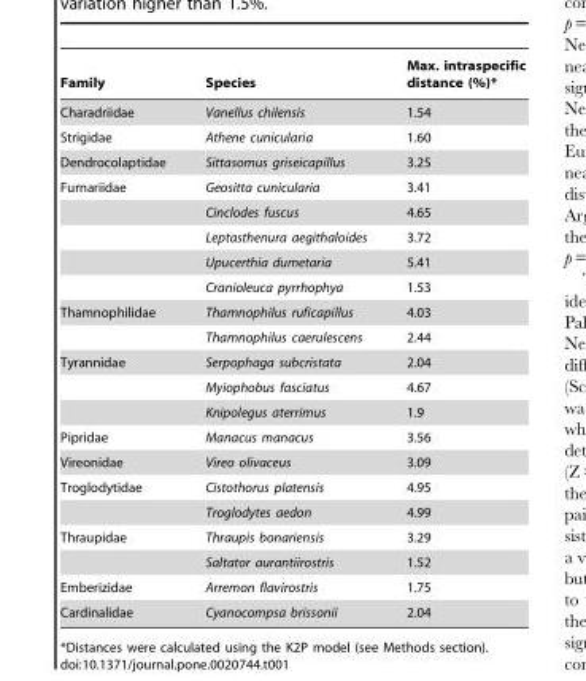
<table><thead><tr><td>Family</td><td>Species</td><td>Max. intraspecific distance (%)*</td></tr></thead><tbody><tr><td>Charadriidae</td><td>Vanellus chilensis</td><td>1.54</td></tr><tr><td>Strigidae</td><td>Athene cunicularia</td><td>1.60</td></tr><tr><td>Dendrocolaptidae</td><td>Sittasomus griseicapillus</td><td>3.25</td></tr><tr><td rowspan="5">Furnariidae</td><td>Geositta cunicularia</td><td>3.41</td></tr><tr><td>Cinclodes fuscus</td><td>4.65</td></tr><tr><td>Leptasthenura aegithaloides</td><td>3.72</td></tr><tr><td>Upucerthia dumetaria</td><td>5.41</td></tr><tr><td>Cranioleuca pyrrhophya</td><td>1.53</td></tr><tr><td rowspan="2">Thamnophilidae</td><td>Thamnophilus ruficapillus</td><td>4.03</td></tr><tr><td>Thamnophilus caerulescens</td><td>2.44</td></tr><tr><td rowspan="3">Tyrannidae</td><td>Serpophaga subcristata</td><td>2.04</td></tr><tr><td>Myiophobus fasciatus</td><td>4.67</td></tr><tr><td>Knipolegus aterrimus</td><td>1.9</td></tr><tr><td>Pipridae</td><td>Manacus manacus</td><td>3.56</td></tr><tr><td>Vireonidae</td><td>Vireo olivaceus</td><td>3.09</td></tr><tr><td rowspan="2">Troglodytidae</td><td>Cistothorus platensis</td><td>4.95</td></tr><tr><td>Troglodytes aedon</td><td>4.99</td></tr><tr><td rowspan="2">Thraupidae</td><td>Thraupis bonariensis</td><td>3.29</td></tr><tr><td>Saltator aurantiirostris</td><td>1.52</td></tr><tr><td>Emberizidae</td><td>Arremon flavirostris</td><td>1.75</td></tr><tr><td>Cardinalidae</td><td>Cyanocompsa brissonii</td><td>2.04</td></tr></tbody></table>